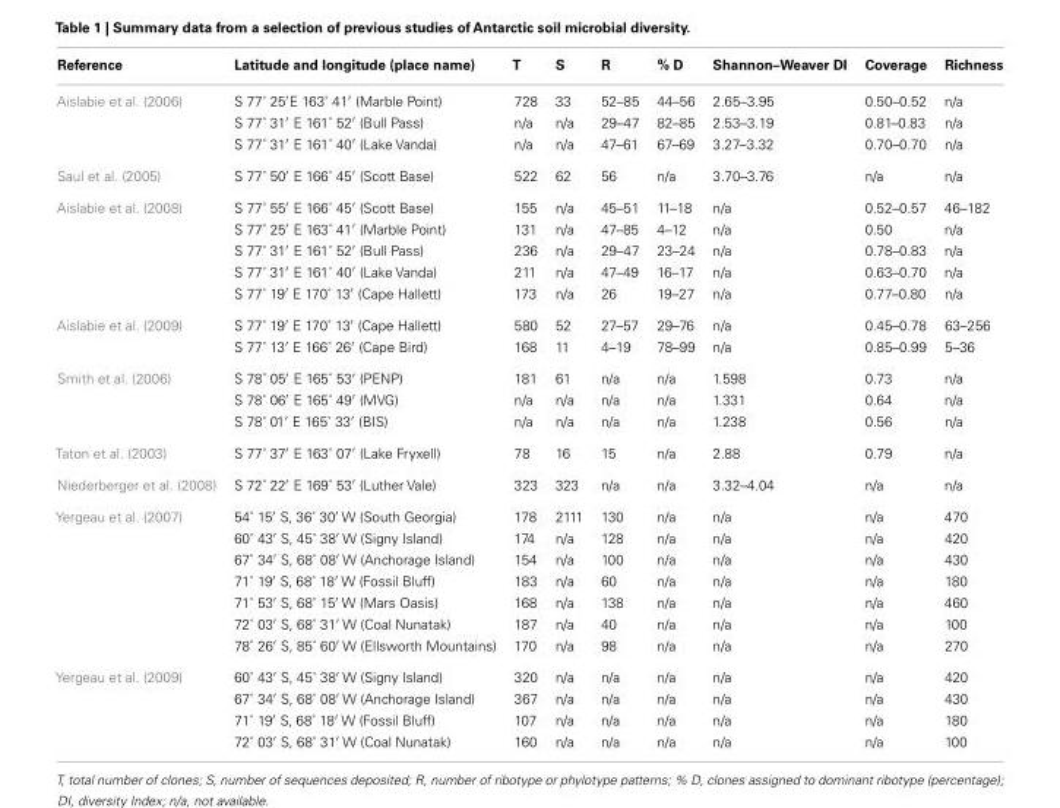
<table><thead><tr><td>Reference</td><td>Latitude and longitude (place name)</td><td>T</td><td>S</td><td>R</td><td>% D</td><td>Shannon–Weaver DI</td><td>Coverage</td><td>Richness</td></tr></thead><tbody><tr><td rowspan="3">Aislabie et al. (2006)</td><td>S 77˚ 25′E 163˚ 41′ (Marble Point)</td><td>728</td><td>33</td><td>52–85</td><td>44–56</td><td>2.65–3.95</td><td>0.50–0.52</td><td>n/a</td></tr><tr><td>S 77˚ 31′ E 161˚ 52′ (Bull Pass)</td><td>n/a</td><td>n/a</td><td>29–47</td><td>82–85</td><td>2.53–3.19</td><td>0.81–0.83</td><td>n/a</td></tr><tr><td>S 77˚ 31′ E 161˚ 40′ (Lake Vanda)</td><td>n/a</td><td>n/a</td><td>47–61</td><td>67–69</td><td>3.27–3.32</td><td>0.70–0.70</td><td>n/a</td></tr><tr><td>Saul et al. (2005)</td><td>S 77˚ 50′ E 166˚ 45′ (Scott Base)</td><td>522</td><td>62</td><td>56</td><td>n/a</td><td>3.70–3.76</td><td>n/a</td><td>n/a</td></tr><tr><td rowspan="5">Aislabie et al. (2008)</td><td>S 77˚ 55′ E 166˚ 45′ (Scott Base)</td><td>155</td><td>n/a</td><td>45–51</td><td>11–18</td><td>n/a</td><td>0.52–0.57</td><td>46–182</td></tr><tr><td>S 77˚ 25′ E 163˚ 41′ (Marble Point)</td><td>131</td><td>n/a</td><td>47–85</td><td>4–12</td><td>n/a</td><td>0.50</td><td>n/a</td></tr><tr><td>S 77˚ 31′ E 161˚ 52′ (Bull Pass)</td><td>236</td><td>n/a</td><td>29–47</td><td>23–24</td><td>n/a</td><td>0.78–0.83</td><td>n/a</td></tr><tr><td>S 77˚ 31′ E 161˚ 40′ (Lake Vanda)</td><td>211</td><td>n/a</td><td>47–49</td><td>16–17</td><td>n/a</td><td>0.63–0.70</td><td>n/a</td></tr><tr><td>S 77˚ 19′ E 170˚ 13′ (Cape Hallett)</td><td>173</td><td>n/a</td><td>26</td><td>19–27</td><td>n/a</td><td>0.77–0.80</td><td>n/a</td></tr><tr><td rowspan="2">Aislabie et al. (2009)</td><td>S 77˚ 19′ E 170˚ 13′ (Cape Hallett)</td><td>580</td><td>52</td><td>27–57</td><td>29–76</td><td>n/a</td><td>0.45–0.78</td><td>63–256</td></tr><tr><td>S 77˚ 13′ E 166˚ 26′ (Cape Bird)</td><td>168</td><td>11</td><td>4–19</td><td>78–99</td><td>n/a</td><td>0.85–0.99</td><td>5–36</td></tr><tr><td rowspan="3">Smith et al. (2006)</td><td>S 78˚ 05′ E 165˚ 53′ (PENP)</td><td>181</td><td>61</td><td>n/a</td><td>n/a</td><td>1.598</td><td>0.73</td><td>n/a</td></tr><tr><td>S 78˚ 06′ E 165˚ 49′ (MVG)</td><td>n/a</td><td>n/a</td><td>n/a</td><td>n/a</td><td>1.331</td><td>0.64</td><td>n/a</td></tr><tr><td>S 78˚ 01′ E 165˚ 33′ (BIS)</td><td>n/a</td><td>n/a</td><td>n/a</td><td>n/a</td><td>1.238</td><td>0.56</td><td>n/a</td></tr><tr><td>Taton et al. (2003)</td><td>S 77˚ 37′ E 163˚ 07′ (Lake Fryxell)</td><td>78</td><td>16</td><td>15</td><td>n/a</td><td>2.88</td><td>0.79</td><td>n/a</td></tr><tr><td>Niederberger et al. (2008)</td><td>S 72˚ 22′ E 169˚ 53′ (Luther Vale)</td><td>323</td><td>323</td><td>n/a</td><td>n/a</td><td>3.32–4.04</td><td>n/a</td><td>n/a</td></tr><tr><td rowspan="7">Yergeau et al. (2007)</td><td>54˚ 15′ S, 36˚ 30′ W (South Georgia)</td><td>178</td><td>2111</td><td>130</td><td>n/a</td><td>n/a</td><td>n/a</td><td>470</td></tr><tr><td>60˚ 43′ S, 45˚ 38′ W (Signy Island)</td><td>174</td><td>n/a</td><td>128</td><td>n/a</td><td>n/a</td><td>n/a</td><td>420</td></tr><tr><td>67˚ 34′ S, 68˚ 08′ W (Anchorage Island)</td><td>154</td><td>n/a</td><td>100</td><td>n/a</td><td>n/a</td><td>n/a</td><td>430</td></tr><tr><td>71˚ 19′ S, 68˚ 18′ W (Fossil Bluff)</td><td>183</td><td>n/a</td><td>60</td><td>n/a</td><td>n/a</td><td>n/a</td><td>180</td></tr><tr><td>71˚ 53′ S, 68˚ 15′ W (Mars Oasis)</td><td>168</td><td>n/a</td><td>138</td><td>n/a</td><td>n/a</td><td>n/a</td><td>460</td></tr><tr><td>72˚ 03′ S, 68˚ 31′ W (Coal Nunatak)</td><td>187</td><td>n/a</td><td>40</td><td>n/a</td><td>n/a</td><td>n/a</td><td>100</td></tr><tr><td>78˚ 26′ S, 85˚ 60′ W (Ellsworth Mountains)</td><td>170</td><td>n/a</td><td>98</td><td>n/a</td><td>n/a</td><td>n/a</td><td>270</td></tr><tr><td rowspan="4">Yergeau et al. (2009)</td><td>60˚ 43′ S, 45˚ 38′ W (Signy Island)</td><td>320</td><td>n/a</td><td>n/a</td><td>n/a</td><td>n/a</td><td>n/a</td><td>420</td></tr><tr><td>67˚ 34′ S, 68˚ 08′ W (Anchorage Island)</td><td>367</td><td>n/a</td><td>n/a</td><td>n/a</td><td>n/a</td><td>n/a</td><td>430</td></tr><tr><td>71˚ 19′ S, 68˚ 18′ W (Fossil Bluff)</td><td>107</td><td>n/a</td><td>n/a</td><td>n/a</td><td>n/a</td><td>n/a</td><td>180</td></tr><tr><td>72˚ 03′ S, 68˚ 31′ W (Coal Nunatak)</td><td>160</td><td>n/a</td><td>n/a</td><td>n/a</td><td>n/a</td><td>n/a</td><td>100</td></tr></tbody></table>